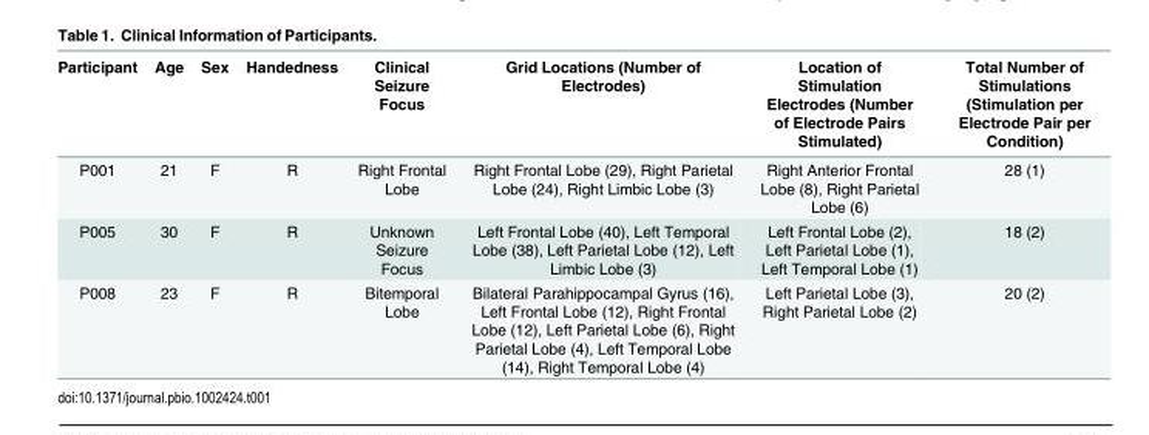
<table><thead><tr><td>Participant</td><td>Age</td><td>Sex</td><td>Handedness</td><td>Clinical Seizure Focus</td><td>Grid Locations (Number of Electrodes)</td><td>Location of Stimulation Electrodes (Number of Electrode Pairs Stimulated)</td><td>Total Number of Stimulations (Stimulation per Electrode Pair per Condition)</td></tr></thead><tbody><tr><td>P001</td><td>21</td><td>F</td><td>R</td><td>Right Frontal Lobe</td><td>Right Frontal Lobe (29), Right Parietal Lobe (24), Right Limbic Lobe (3)</td><td>Right Anterior Frontal Lobe (8), Right Parietal Lobe (6)</td><td>28 (1)</td></tr><tr><td>P005</td><td>30</td><td>F</td><td>R</td><td>Unknown Seizure Focus</td><td>Left Frontal Lobe (40), Left Temporal Lobe (38), Left Parietal Lobe (12), Left Limbic Lobe (3)</td><td>Left Frontal Lobe (2), Left Parietal Lobe (1), Left Temporal Lobe (1)</td><td>18 (2)</td></tr><tr><td>P008</td><td>23</td><td>F</td><td>R</td><td>Bitemporal Lobe</td><td>Bilateral Parahippocampal Gyrus (16), Left Frontal Lobe (12), Right Frontal Lobe (12), Left Parietal Lobe (6), Right Parietal Lobe (4), Left Temporal Lobe (14), Right Temporal Lobe (4)</td><td>Left Parietal Lobe (3), Right Parietal Lobe (2)</td><td>20 (2)</td></tr></tbody></table>